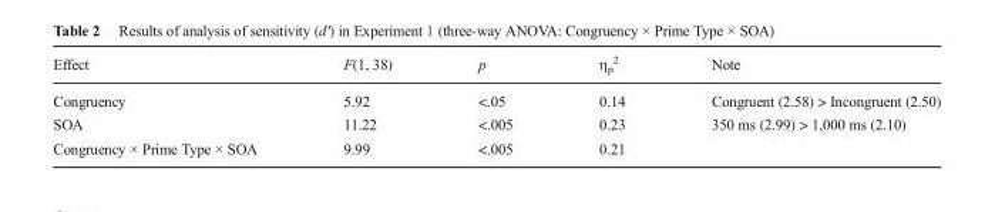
<table><thead><tr><td>Effect</td><td>F(1, 38)</td><td>p</td><td>η<sub>p</sub> <sup>2</sup></td><td>Note</td></tr></thead><tbody><tr><td>Congruency</td><td>5.92</td><td>&lt;.05</td><td>0.14</td><td>Congruent (2.58) &gt; Incongruent (2.50)</td></tr><tr><td>SOA</td><td>11.22</td><td>&lt;.005</td><td>0.23</td><td>350 ms (2.99) &gt; 1,000 ms (2.10)</td></tr><tr><td>Congruency × Prime Type × SOA</td><td>9.99</td><td>&lt;.005</td><td>0.21</td><td></td></tr></tbody></table>